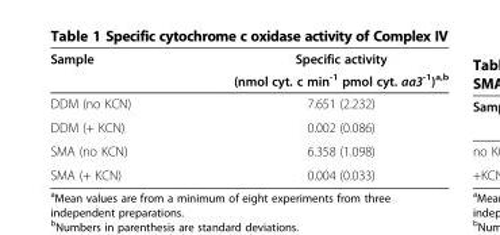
<table><thead><tr><td rowspan="2">Sample</td><td rowspan="2">Specific activity (nmol cyt. c min<sup>-1</sup> pmol cyt. aa3<sup>-1</sup>)<sup>a,b</sup></td></tr><tr></tr></thead><tbody><tr><td>DDM (no KCN)</td><td>7.651 (2.232)</td></tr><tr><td>DDM (+ KCN)</td><td>0.002 (0.086)</td></tr><tr><td>SMA (no KCN)</td><td>6.358 (1.098)</td></tr><tr><td>SMA (+ KCN)</td><td>0.004 (0.033)</td></tr></tbody></table>